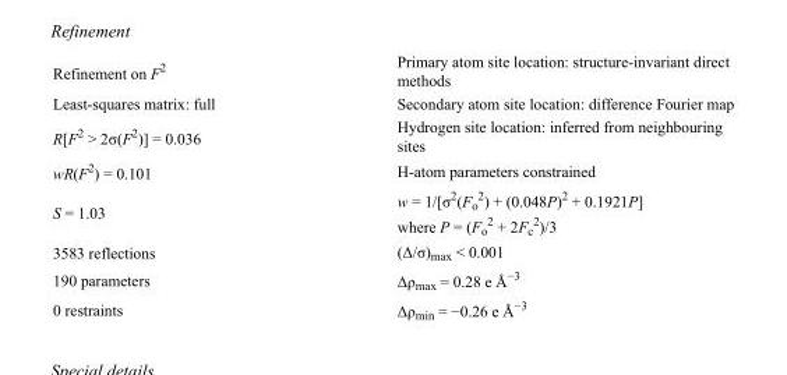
<table><tbody><tr><td>Refinement on F<sup>2</sup></td><td>Primary atom site location: structure-invariant direct methods</td></tr><tr><td>Least-squares matrix: full</td><td>Secondary atom site location: difference Fourier map</td></tr><tr><td>R[F<sup>2</sup> &gt; 2σ(F<sup>2</sup>)] = 0.036</td><td>Hydrogen site location: inferred from neighbouring sites</td></tr><tr><td>wR(F<sup>2</sup>) = 0.101</td><td>H-atom parameters constrained</td></tr><tr><td>S = 1.03</td><td>w = 1/[σ<sup>2</sup>(F<sub>o</sub> <sup>2</sup>) + (0.048P)<sup>2</sup> + 0.1921P] where P = (F<sub>o</sub> <sup>2</sup> + 2F<sub>c</sub> <sup>2</sup>)/3</td></tr><tr><td>3583 reflections</td><td>(Δ/σ)<sub>max</sub> &lt; 0.001</td></tr><tr><td>190 parameters</td><td>Δρ<sub>max</sub> = 0.28 e Å<sup>−3</sup></td></tr><tr><td>0 restraints</td><td>Δρ<sub>min</sub> = −0.26 e Å<sup>−3</sup></td></tr></tbody></table>